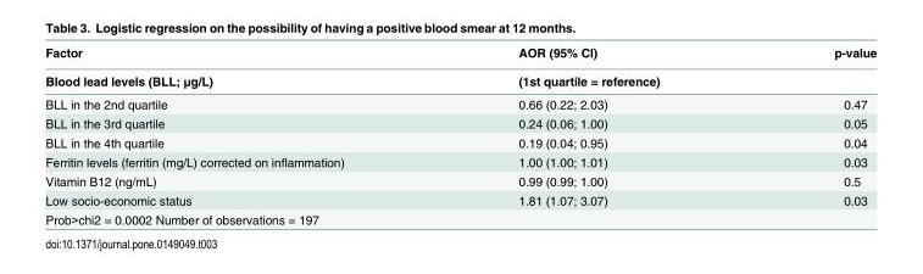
<table><thead><tr><td rowspan="2">Factor Blood lead levels (BLL; μg/L)</td><td rowspan="2">AOR (95% CI) (1st quartile = reference)</td><td rowspan="2">p-value</td></tr><tr></tr></thead><tbody><tr><td>BLL in the 2nd quartile</td><td>0.66 (0.22; 2.03)</td><td>0.47</td></tr><tr><td>BLL in the 3rd quartile</td><td>0.24 (0.06; 1.00)</td><td>0.05</td></tr><tr><td>BLL in the 4th quartile</td><td>0.19 (0.04; 0.95)</td><td>0.04</td></tr><tr><td>Ferritin levels (ferritin (mg/L) corrected on inflammation)</td><td>1.00 (1.00; 1.01)</td><td>0.03</td></tr><tr><td>Vitamin B12 (ng/mL)</td><td>0.99 (0.99; 1.00)</td><td>0.5</td></tr><tr><td>Low socio-economic status</td><td>1.81 (1.07; 3.07)</td><td>0.03</td></tr><tr><td>Prob&gt;chi2 = 0.0002 Number of observations = 197</td><td></td><td></td></tr></tbody></table>